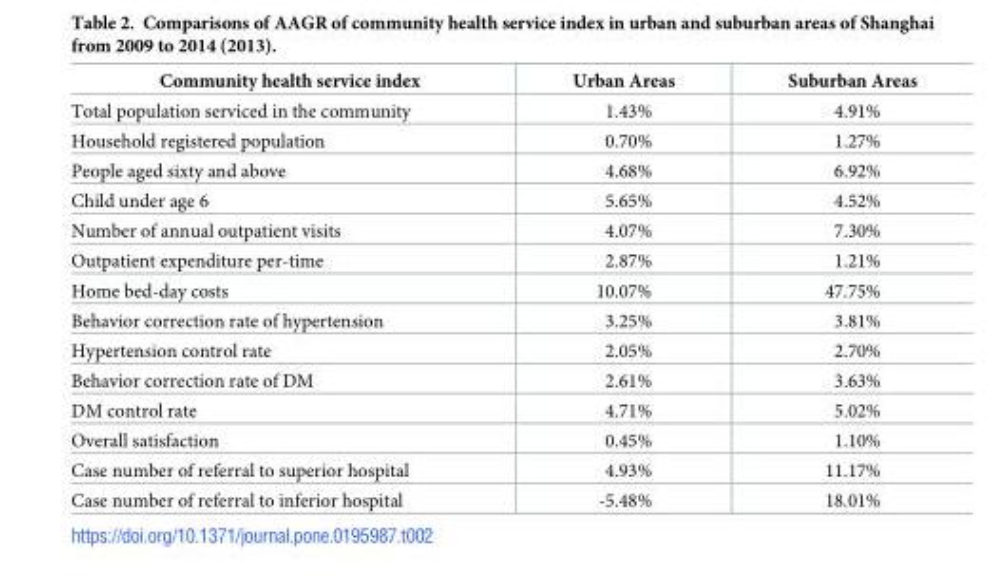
<table><thead><tr><td>Community health service index</td><td>Urban Areas</td><td>Suburban Areas</td></tr></thead><tbody><tr><td>Total population serviced in the community</td><td>1.43%</td><td>4.91%</td></tr><tr><td>Household registered population</td><td>0.70%</td><td>1.27%</td></tr><tr><td>People aged sixty and above</td><td>4.68%</td><td>6.92%</td></tr><tr><td>Child under age 6</td><td>5.65%</td><td>4.52%</td></tr><tr><td>Number of annual outpatient visits</td><td>4.07%</td><td>7.30%</td></tr><tr><td>Outpatient expenditure per-time</td><td>2.87%</td><td>1.21%</td></tr><tr><td>Home bed-day costs</td><td>10.07%</td><td>47.75%</td></tr><tr><td>Behavior correction rate of hypertension</td><td>3.25%</td><td>3.81%</td></tr><tr><td>Hypertension control rate</td><td>2.05%</td><td>2.70%</td></tr><tr><td>Behavior correction rate of DM</td><td>2.61%</td><td>3.63%</td></tr><tr><td>DM control rate</td><td>4.71%</td><td>5.02%</td></tr><tr><td>Overall satisfaction</td><td>0.45%</td><td>1.10%</td></tr><tr><td>Case number of referral to superior hospital</td><td>4.93%</td><td>11.17%</td></tr><tr><td>Case number of referral to inferior hospital</td><td>-5.48%</td><td>18.01%</td></tr></tbody></table>